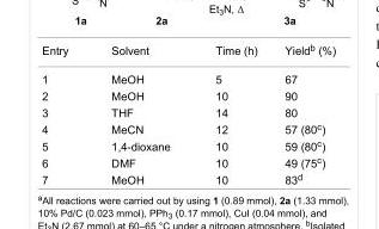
<table><tbody><tr><td>Entry</td><td>Solvent</td><td>Time (h)</td><td>Yield<sup>b</sup> (%)</td></tr><tr><td>1</td><td>MeOH</td><td>5</td><td>67</td></tr><tr><td>2</td><td>MeOH</td><td>10</td><td>90</td></tr><tr><td>3</td><td>THF</td><td>14</td><td>80</td></tr><tr><td>4</td><td>MeCN</td><td>12</td><td>57 (80<sup>c</sup>)</td></tr><tr><td>5</td><td>1,4-dioxane</td><td>10</td><td>59 (80<sup>c</sup>)</td></tr><tr><td>6</td><td>DMF</td><td>10</td><td>49 (75<sup>c</sup>)</td></tr><tr><td>7</td><td>MeOH</td><td>10</td><td>83<sup>d</sup></td></tr></tbody></table>